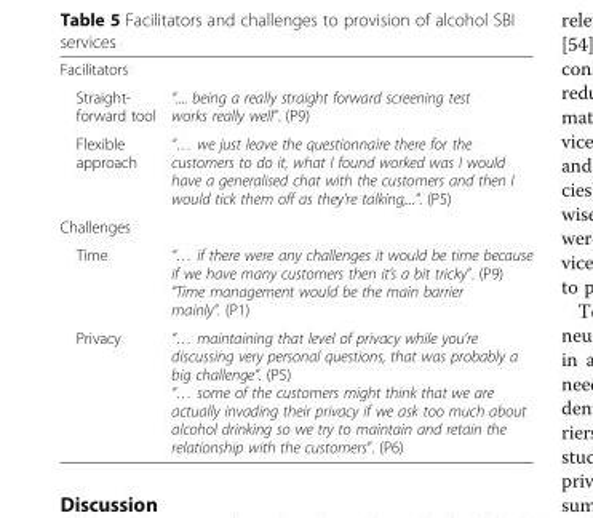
<table><tbody><tr><td colspan="2">Facilitators</td></tr><tr><td>Straight- forward tool</td><td>“.... being a really straight forward screening test works really well”. (P9)</td></tr><tr><td>Flexible approach</td><td>“… we just leave the questionnaire there for the customers to do it, what I found worked was I would have a generalised chat with the customers and then I would tick them off as they’re talking,...”. (P5)</td></tr><tr><td colspan="2">Challenges</td></tr><tr><td>Time</td><td>“… if there were any challenges it would be time because if we have many customers then it’s a bit tricky”. (P9) “Time management would be the main barrier mainly”. (P1)</td></tr><tr><td>Privacy</td><td>“… maintaining that level of privacy while you’re discussing very personal questions, that was probably a big challenge”. (P5) “… some of the customers might think that we are actually invading their privacy if we ask too much about alcohol drinking so we try to maintain and retain the relationship with the customers”. (P6)</td></tr></tbody></table>